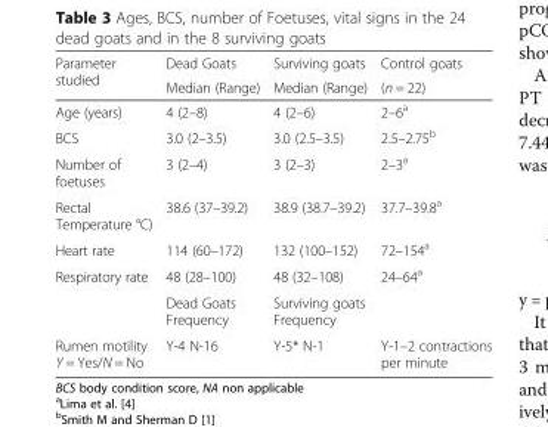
<table><thead><tr><td rowspan="2">Parameter studied</td><td rowspan="2">Dead Goats Median (Range)</td><td rowspan="2">Surviving goats Median (Range)</td><td rowspan="2">Control goats (n = 22)</td></tr><tr></tr></thead><tbody><tr><td>Age (years)</td><td>4 (2–8)</td><td>4 (2–6)</td><td>2–6<sup>a</sup></td></tr><tr><td>BCS</td><td>3.0 (2–3.5)</td><td>3.0 (2.5–3.5)</td><td>2.5–2.75<sup>b</sup></td></tr><tr><td>Number of foetuses</td><td>3 (2–4)</td><td>3 (2–3)</td><td>2–3<sup>a</sup></td></tr><tr><td>Rectal Temperature °C)</td><td>38.6 (37–39.2)</td><td>38.9 (38.7–39.2)</td><td>37.7–39.8<sup>a</sup></td></tr><tr><td>Heart rate</td><td>114 (60–172)</td><td>132 (100–152)</td><td>72–154<sup>a</sup></td></tr><tr><td rowspan="2">Respiratory rate</td><td>48 (28–100)</td><td>48 (32–108)</td><td>24–64<sup>a</sup></td></tr><tr><td>Dead Goats Frequency</td><td>Surviving goats Frequency</td><td></td></tr><tr><td>Rumen motility Y = Yes/N = No</td><td>Y-4 N-16</td><td>Y-5* N-1</td><td>Y-1–2 contractions per minute</td></tr></tbody></table>